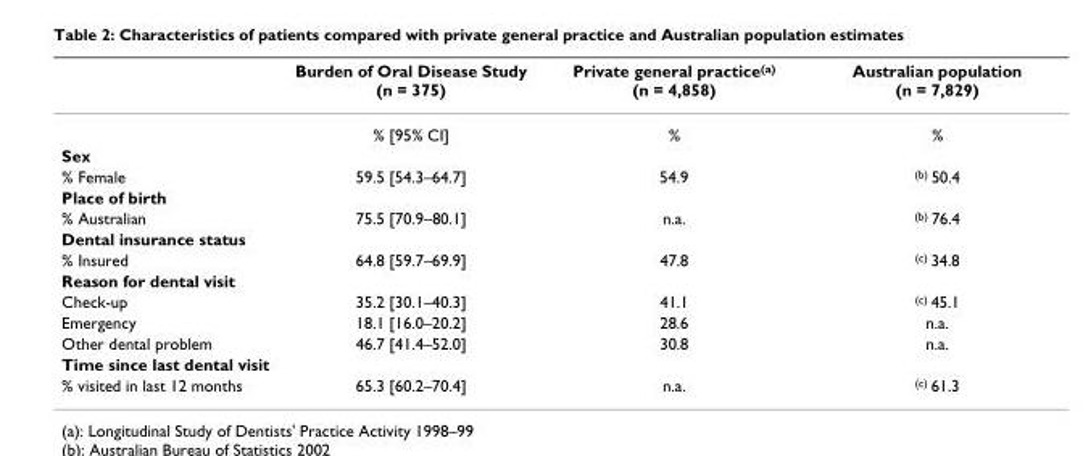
<table><thead><tr><td></td><td>Burden of Oral Disease Study (n = 375)</td><td>Private general practice(a) (n = 4,858)</td><td>Australian population (n = 7,829)</td></tr></thead><tbody><tr><td></td><td>% [95% CI]</td><td>%</td><td>%</td></tr><tr><td colspan="4">Sex</td></tr><tr><td>% Female</td><td>59.5 [54.3–64.7]</td><td>54.9</td><td>(b) 50.4</td></tr><tr><td colspan="4">Place of birth</td></tr><tr><td>% Australian</td><td>75.5 [70.9–80.1]</td><td>n.a.</td><td>(b) 76.4</td></tr><tr><td colspan="4">Dental insurance status</td></tr><tr><td>% Insured</td><td>64.8 [59.7–69.9]</td><td>47.8</td><td>(c) 34.8</td></tr><tr><td colspan="4">Reason for dental visit</td></tr><tr><td>Check-up</td><td>35.2 [30.1–40.3]</td><td>41.1</td><td>(c) 45.1</td></tr><tr><td>Emergency</td><td>18.1 [16.0–20.2]</td><td>28.6</td><td>n.a.</td></tr><tr><td>Other dental problem</td><td>46.7 [41.4–52.0]</td><td>30.8</td><td>n.a.</td></tr><tr><td colspan="4">Time since last dental visit</td></tr><tr><td>% visited in last 12 months</td><td>65.3 [60.2–70.4]</td><td>n.a.</td><td>(c) 61.3</td></tr></tbody></table>